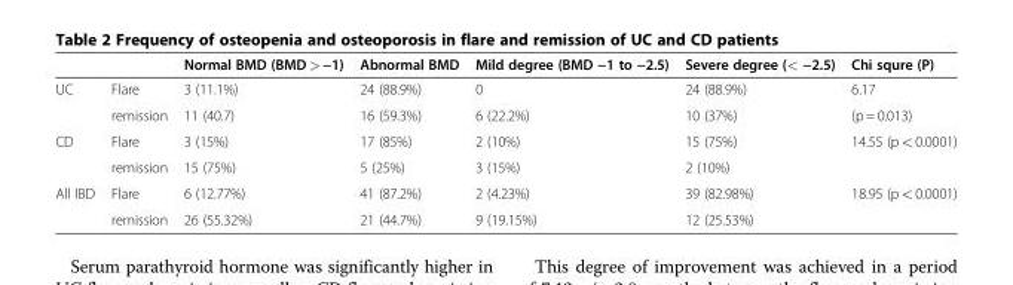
<table><thead><tr><td></td><td></td><td>Normal BMD (BMD &gt; −1)</td><td>Abnormal BMD</td><td>Mild degree (BMD −1 to −2.5)</td><td>Severe degree (&lt; −2.5)</td><td>Chi squre (P)</td></tr></thead><tbody><tr><td rowspan="2">UC</td><td>Flare</td><td>3 (11.1%)</td><td>24 (88.9%)</td><td>0</td><td>24 (88.9%)</td><td>6.17</td></tr><tr><td>remission</td><td>11 (40.7)</td><td>16 (59.3%)</td><td>6 (22.2%)</td><td>10 (37%)</td><td>(p = 0.013)</td></tr><tr><td rowspan="2">CD</td><td>Flare</td><td>3 (15%)</td><td>17 (85%)</td><td>2 (10%)</td><td>15 (75%)</td><td rowspan="2">14.55 (p &lt; 0.0001)</td></tr><tr><td>remission</td><td>15 (75%)</td><td>5 (25%)</td><td>3 (15%)</td><td>2 (10%)</td></tr><tr><td rowspan="2">All IBD</td><td>Flare</td><td>6 (12.77%)</td><td>41 (87.2%)</td><td>2 (4.23%)</td><td>39 (82.98%)</td><td>18.95 (p &lt; 0.0001)</td></tr><tr><td>remission</td><td>26 (55.32%)</td><td>21 (44.7%)</td><td>9 (19.15%)</td><td>12 (25.53%)</td><td></td></tr></tbody></table>